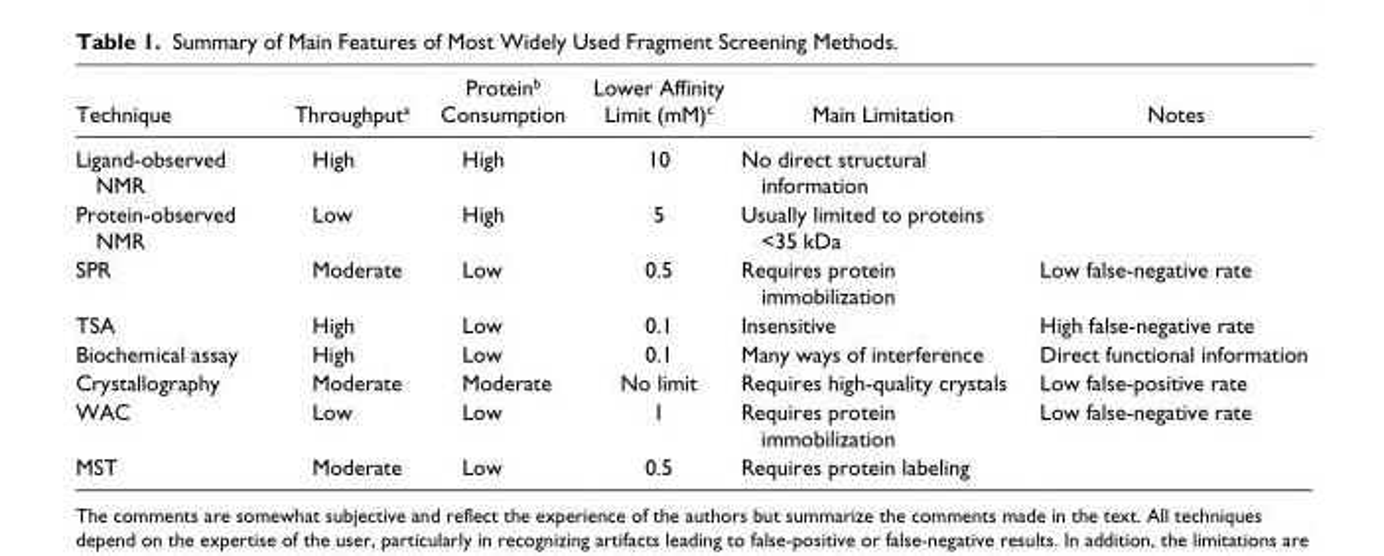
<table><thead><tr><td>Technique</td><td>Throughput<sup>a</sup></td><td>Protein<sup>b</sup> Consumption</td><td>Lower Affinity Limit (mM)<sup>c</sup></td><td>Main Limitation</td><td>Notes</td></tr></thead><tbody><tr><td>Ligand-observed NMR</td><td>High</td><td>High</td><td>10</td><td>No direct structural information</td><td></td></tr><tr><td>Protein-observed NMR</td><td>Low</td><td>High</td><td>5</td><td>Usually limited to proteins &lt;35 kDa</td><td></td></tr><tr><td>SPR</td><td>Moderate</td><td>Low</td><td>0.5</td><td>Requires protein immobilization</td><td>Low false-negative rate</td></tr><tr><td>TSA</td><td>High</td><td>Low</td><td>0.1</td><td>Insensitive</td><td>High false-negative rate</td></tr><tr><td>Biochemical assay</td><td>High</td><td>Low</td><td>0.1</td><td>Many ways of interference</td><td>Direct functional information</td></tr><tr><td>Crystallography</td><td>Moderate</td><td>Moderate</td><td>No limit</td><td>Requires high-quality crystals</td><td>Low false-positive rate</td></tr><tr><td>WAC</td><td>Low</td><td>Low</td><td>1</td><td>Requires protein immobilization</td><td>Low false-negative rate</td></tr><tr><td>MST</td><td>Moderate</td><td>Low</td><td>0.5</td><td>Requires protein labeling</td><td></td></tr></tbody></table>